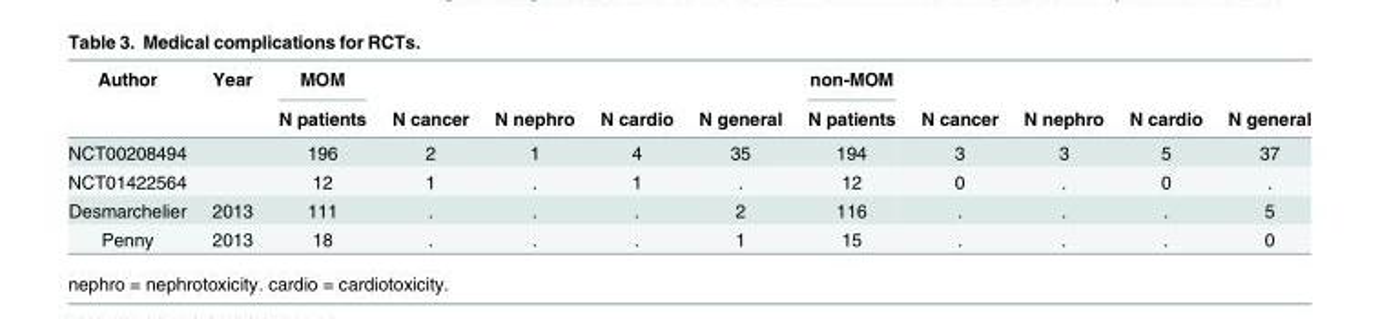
<table><thead><tr><td rowspan="2">Author</td><td rowspan="2">Year</td><td rowspan="2">MOM N patients</td><td rowspan="2">N cancer</td><td rowspan="2">N nephro</td><td rowspan="2">N cardio</td><td rowspan="2">N general</td><td rowspan="2">non-MOM N patients</td><td rowspan="2">N cancer</td><td rowspan="2">N nephro</td><td rowspan="2">N cardio</td><td rowspan="2">N general</td></tr><tr></tr></thead><tbody><tr><td>NCT00208494</td><td></td><td>196</td><td>2</td><td>1</td><td>4</td><td>35</td><td>194</td><td>3</td><td>3</td><td>5</td><td>37</td></tr><tr><td>NCT01422564</td><td></td><td>12</td><td>1</td><td>.</td><td>1</td><td>.</td><td>12</td><td>0</td><td>.</td><td>0</td><td>.</td></tr><tr><td>Desmarchelier</td><td>2013</td><td>111</td><td>.</td><td>.</td><td>.</td><td>2</td><td>116</td><td>.</td><td>.</td><td>.</td><td>5</td></tr><tr><td>Penny</td><td>2013</td><td>18</td><td>.</td><td>.</td><td>.</td><td>1</td><td>15</td><td>.</td><td>.</td><td>.</td><td>0</td></tr></tbody></table>